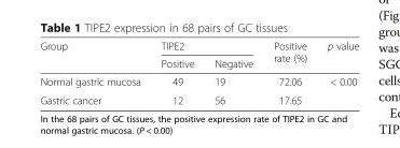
<table><thead><tr><td rowspan="2">Group</td><td colspan="2">TIPE2</td><td rowspan="2">Positive rate (%)</td><td rowspan="2">p value</td></tr><tr><td>Positive</td><td>Negative</td></tr></thead><tbody><tr><td>Normal gastric mucosa</td><td>49</td><td>19</td><td>72.06</td><td rowspan="2">&lt; 0.00</td></tr><tr><td>Gastric cancer</td><td>12</td><td>56</td><td>17.65</td></tr></tbody></table>